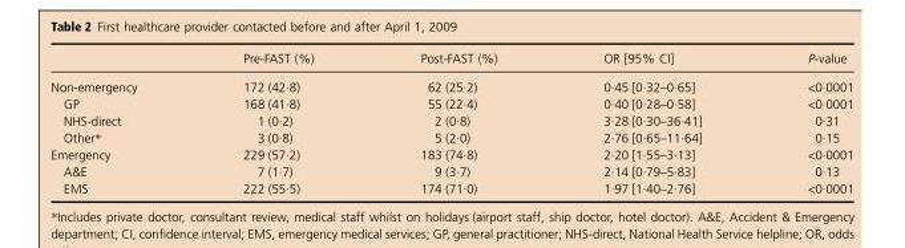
<table><thead><tr><td></td><td>Pre-FAST (%)</td><td>Post-FAST (%)</td><td>OR [95% CI]</td><td>P-value</td></tr></thead><tbody><tr><td>Non-emergency</td><td>172 (42·8)</td><td>62 (25·2)</td><td>0·45 [0·32–0·65]</td><td>&lt;0·0001</td></tr><tr><td>GP</td><td>168 (41·8)</td><td>55 (22·4)</td><td>0·40 [0·28–0·58]</td><td>&lt;0·0001</td></tr><tr><td>NHS-direct</td><td>1 (0·2)</td><td>2 (0·8)</td><td>3·28 [0·30–36·41]</td><td>0·31</td></tr><tr><td>Other*</td><td>3 (0·8)</td><td>5 (2·0)</td><td>2·76 [0·65–11·64]</td><td>0·15</td></tr><tr><td>Emergency</td><td>229 (57·2)</td><td>183 (74·8)</td><td>2·20 [1·55–3·13]</td><td>&lt;0·0001</td></tr><tr><td>A&amp;E</td><td>7 (1·7)</td><td>9 (3·7)</td><td>2·14 [0·79–5·83]</td><td>0·13</td></tr><tr><td>EMS</td><td>222 (55·5)</td><td>174 (71·0)</td><td>1·97 [1·40–2·76]</td><td>&lt;0·0001</td></tr></tbody></table>